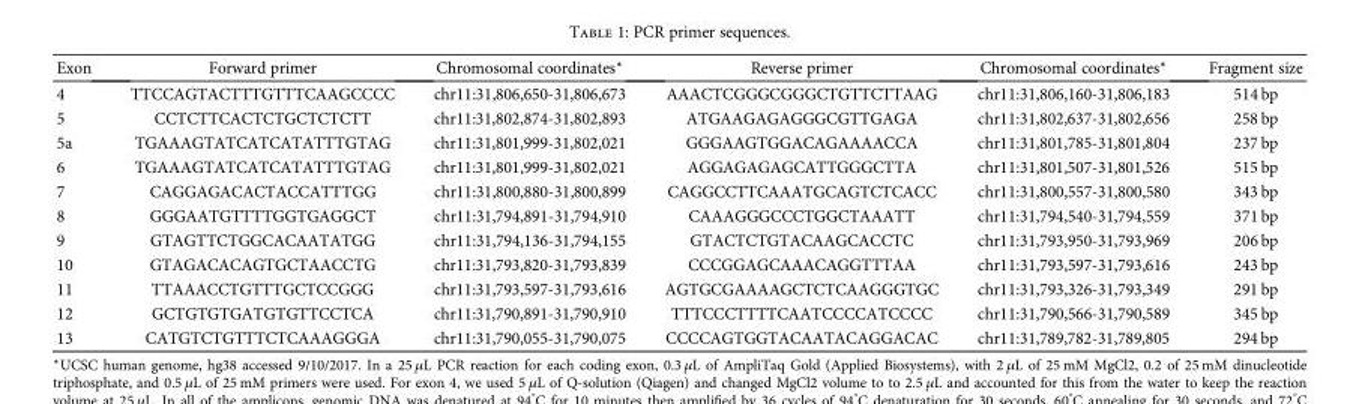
<table><thead><tr><td>Exon</td><td>Forward primer</td><td>Chromosomal coordinates∗</td><td>Reverse primer</td><td>Chromosomal coordinates∗</td><td>Fragment size</td></tr></thead><tbody><tr><td>4</td><td>TTCCAGTACTTTGTTTCAAGCCCC</td><td>chr11:31,806,650-31,806,673</td><td>AAACTCGGGCGGGCTGTTCTTAAG</td><td>chr11:31,806,160-31,806,183</td><td>514 bp</td></tr><tr><td>5</td><td>CCTCTTCACTCTGCTCTCTT</td><td>chr11:31,802,874-31,802,893</td><td>ATGAAGAGAGGGCGTTGAGA</td><td>chr11:31,802,637-31,802,656</td><td>258 bp</td></tr><tr><td>5a</td><td>TGAAAGTATCATCATATTTGTAG</td><td>chr11:31,801,999-31,802,021</td><td>GGGAAGTGGACAGAAAACCA</td><td>chr11:31,801,785-31,801,804</td><td>237 bp</td></tr><tr><td>6</td><td>TGAAAGTATCATCATATTTGTAG</td><td>chr11:31,801,999-31,802,021</td><td>AGGAGAGAGCATTGGGCTTA</td><td>chr11:31,801,507-31,801,526</td><td>515 bp</td></tr><tr><td>7</td><td>CAGGAGACACTACCATTTGG</td><td>chr11:31,800,880-31,800,899</td><td>CAGGCCTTCAAATGCAGTCTCACC</td><td>chr11:31,800,557-31,800,580</td><td>343 bp</td></tr><tr><td>8</td><td>GGGAATGTTTTGGTGAGGCT</td><td>chr11:31,794,891-31,794,910</td><td>CAAAGGGCCCTGGCTAAATT</td><td>chr11:31,794,540-31,794,559</td><td>371 bp</td></tr><tr><td>9</td><td>GTAGTTCTGGCACAATATGG</td><td>chr11:31,794,136-31,794,155</td><td>GTACTCTGTACAAGCACCTC</td><td>chr11:31,793,950-31,793,969</td><td>206 bp</td></tr><tr><td>10</td><td>GTAGACACAGTGCTAACCTG</td><td>chr11:31,793,820-31,793,839</td><td>CCCGGAGCAAACAGGTTTAA</td><td>chr11:31,793,597-31,793,616</td><td>243 bp</td></tr><tr><td>11</td><td>TTAAACCTGTTTGCTCCGGG</td><td>chr11:31,793,597-31,793,616</td><td>AGTGCGAAAAGCTCTCAAGGGTGC</td><td>chr11:31,793,326-31,793,349</td><td>291 bp</td></tr><tr><td>12</td><td>GCTGTGTGATGTGTTCCTCA</td><td>chr11:31,790,891-31,790,910</td><td>TTTCCCTTTTCAATCCCCATCCCC</td><td>chr11:31,790,566-31,790,589</td><td>345 bp</td></tr><tr><td>13</td><td>CATGTCTGTTTCTCAAAGGGA</td><td>chr11:31,790,055-31,790,075</td><td>CCCCAGTGGTACAATACAGGACAC</td><td>chr11:31,789,782-31,789,805</td><td>294 bp</td></tr></tbody></table>